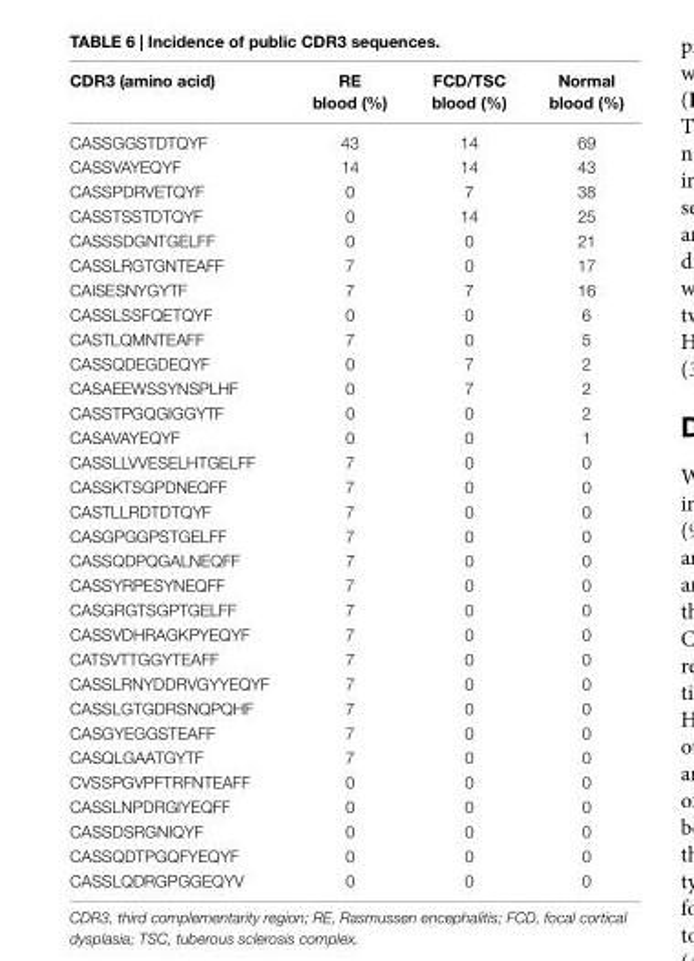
<table><thead><tr><td>cDr3 (amino acid)</td><td>re blood (%)</td><td>FcD/Tsc blood (%)</td><td>normal blood (%)</td></tr></thead><tbody><tr><td>CASSGGSTDTQYF</td><td>43</td><td>14</td><td>69</td></tr><tr><td>CASSVAYEQYF</td><td>14</td><td>14</td><td>43</td></tr><tr><td>CASSPDRVETQYF</td><td>0</td><td>7</td><td>38</td></tr><tr><td>CASSTSSTDTQYF</td><td>0</td><td>14</td><td>25</td></tr><tr><td>CASSSDGNTGELFF</td><td>0</td><td>0</td><td>21</td></tr><tr><td>CASSLRGTGNTEAFF</td><td>7</td><td>0</td><td>17</td></tr><tr><td>CAISESNYGYTF</td><td>7</td><td>7</td><td>16</td></tr><tr><td>CASSLSSFQETQYF</td><td>0</td><td>0</td><td>6</td></tr><tr><td>CASTLQMNTEAFF</td><td>7</td><td>0</td><td>5</td></tr><tr><td>CASSQDEGDEQYF</td><td>0</td><td>7</td><td>2</td></tr><tr><td>CASAEEWSSYNSPLHF</td><td>0</td><td>7</td><td>2</td></tr><tr><td>CASSTPGQGIGGYTF</td><td>0</td><td>0</td><td>2</td></tr><tr><td>CASAVAYEQYF</td><td>0</td><td>0</td><td>1</td></tr><tr><td>CASSLLVVESELHTGELFF</td><td>7</td><td>0</td><td>0</td></tr><tr><td>CASSKTSGPDNEQFF</td><td>7</td><td>0</td><td>0</td></tr><tr><td>CASTLLRDTDTQYF</td><td>7</td><td>0</td><td>0</td></tr><tr><td>CASGPGGPSTGELFF</td><td>7</td><td>0</td><td>0</td></tr><tr><td>CASSQDPQGALNEQFF</td><td>7</td><td>0</td><td>0</td></tr><tr><td>CASSYRPESYNEQFF</td><td>7</td><td>0</td><td>0</td></tr><tr><td>CASGRGTSGPTGELFF</td><td>7</td><td>0</td><td>0</td></tr><tr><td>CASSVDHRAGKPYEQYF</td><td>7</td><td>0</td><td>0</td></tr><tr><td>CATSVTTGGYTEAFF</td><td>7</td><td>0</td><td>0</td></tr><tr><td>CASSLRNYDDRVGYYEQYF</td><td>7</td><td>0</td><td>0</td></tr><tr><td>CASSLGTGDRSNQPQHF</td><td>7</td><td>0</td><td>0</td></tr><tr><td>CASGYEGGSTEAFF</td><td>7</td><td>0</td><td>0</td></tr><tr><td>CASQLGAATGYTF</td><td>7</td><td>0</td><td>0</td></tr><tr><td>CVSSPGVPFTRFNTEAFF</td><td>0</td><td>0</td><td>0</td></tr><tr><td>CASSLNPDRGIYEQFF</td><td>0</td><td>0</td><td>0</td></tr><tr><td>CASSDSRGNIQYF</td><td>0</td><td>0</td><td>0</td></tr><tr><td>CASSQDTPGQFYEQYF</td><td>0</td><td>0</td><td>0</td></tr><tr><td>CASSLQDRGPGGEQYV</td><td>0</td><td>0</td><td>0</td></tr></tbody></table>